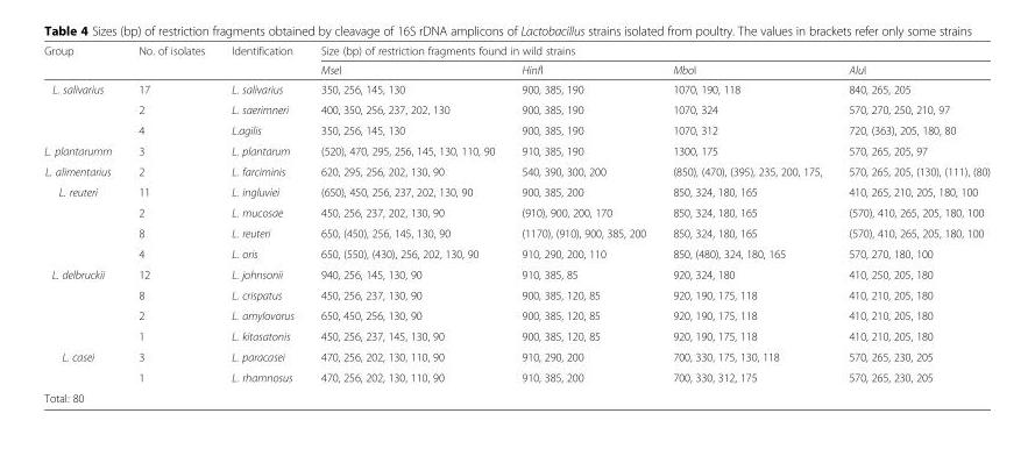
<table><thead><tr><td rowspan="2">Group</td><td rowspan="2">No. of isolates</td><td rowspan="2">Identification</td><td colspan="4">Size (bp) of restriction fragments found in wild strains</td></tr><tr><td>MseI</td><td>HinfI</td><td>MboI</td><td>AluI</td></tr></thead><tbody><tr><td rowspan="3">L. salivarius</td><td>17</td><td>L. salivarius</td><td>350, 256, 145, 130</td><td>900, 385, 190</td><td>1070, 190, 118</td><td>840, 265, 205</td></tr><tr><td>2</td><td>L. saerimneri</td><td>400, 350, 256, 237, 202, 130</td><td>900, 385, 190</td><td>1070, 324</td><td>570, 270, 250, 210, 97</td></tr><tr><td>4</td><td>L.agilis</td><td>350, 256, 145, 130</td><td>900, 385, 190</td><td>1070, 312</td><td>720, (363), 205, 180, 80</td></tr><tr><td>L. plantarumm</td><td>3</td><td>L. plantarum</td><td>(520), 470, 295, 256, 145, 130, 110, 90</td><td>910, 385, 190</td><td>1300, 175</td><td>570, 265, 205, 97</td></tr><tr><td>L. alimentarius</td><td>2</td><td>L. farciminis</td><td>620, 295, 256, 202, 130, 90</td><td>540, 390, 300, 200</td><td>(850), (470), (395), 235, 200, 175,</td><td>570, 265, 205, (130), (111), (80)</td></tr><tr><td rowspan="4">L. reuteri</td><td>11</td><td>L. ingluviei</td><td>(650), 450, 256, 237, 202, 130, 90</td><td>900, 385, 200</td><td>850, 324, 180, 165</td><td>410, 265, 210, 205, 180, 100</td></tr><tr><td>2</td><td>L. mucosae</td><td>450, 256, 237, 202, 130, 90</td><td>(910), 900, 200, 170</td><td>850, 324, 180, 165</td><td>(570), 410, 265, 205, 180, 100</td></tr><tr><td>8</td><td>L. reuteri</td><td>650, (450), 256, 145, 130, 90</td><td>(1170), (910), 900, 385, 200</td><td>850, 324, 180, 165</td><td>(570), 410, 265, 205, 180, 100</td></tr><tr><td>4</td><td>L. oris</td><td>650, (550), (430), 256, 202, 130, 90</td><td>910, 290, 200, 110</td><td>850, (480), 324, 180, 165</td><td>570, 270, 180, 100</td></tr><tr><td rowspan="4">L. delbruckii</td><td>12</td><td>L. johnsonii</td><td>940, 256, 145, 130, 90</td><td>910, 385, 85</td><td>920, 324, 180</td><td>410, 250, 205, 180</td></tr><tr><td>8</td><td>L. crispatus</td><td>450, 256, 237, 130, 90</td><td>900, 385, 120, 85</td><td>920, 190, 175, 118</td><td>410, 210, 205, 180</td></tr><tr><td>2</td><td>L. amylovorus</td><td>650, 450, 256, 130, 90</td><td>900, 385, 120, 85</td><td>920, 190, 175, 118</td><td>410, 210, 205, 180</td></tr><tr><td>1</td><td>L. kitasatonis</td><td>450, 256, 237, 145, 130, 90</td><td>900, 385, 120, 85</td><td>920, 190, 175, 118</td><td>410, 210, 205, 180</td></tr><tr><td rowspan="2">L. casei</td><td>3</td><td>L. paracasei</td><td>470, 256, 202, 130, 110, 90</td><td>910, 290, 200</td><td>700, 330, 175, 130, 118</td><td>570, 265, 230, 205</td></tr><tr><td>1</td><td>L. rhamnosus</td><td>470, 256, 202, 130, 110, 90</td><td>910, 385, 200</td><td>700, 330, 312, 175</td><td>570, 265, 230, 205</td></tr><tr><td colspan="2">Total: 80</td><td></td><td></td><td></td><td></td><td></td></tr></tbody></table>